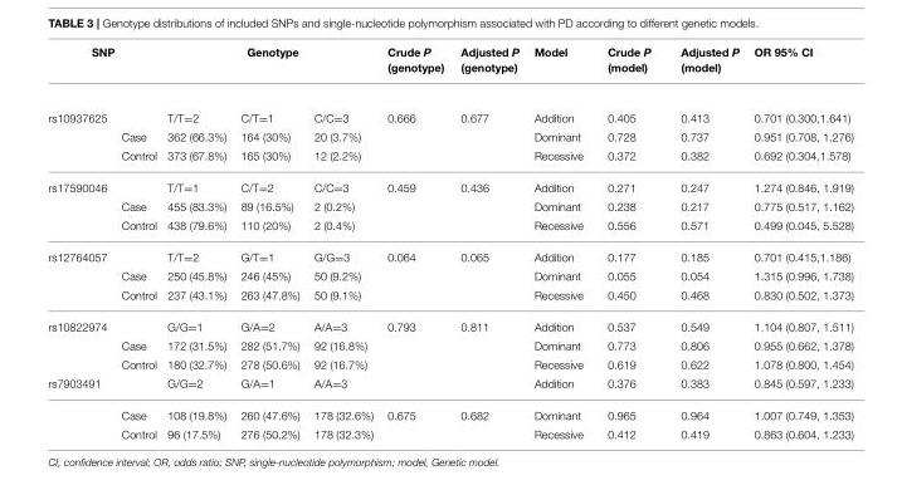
<table><thead><tr><td colspan="2">SNP</td><td colspan="3">Genotype</td><td rowspan="2">Crude P (genotype) 0.666</td><td rowspan="2">Adjusted P (genotype) 0.677</td><td rowspan="2">Model Addition</td><td rowspan="2">Crude P (model) 0.405</td><td rowspan="2">Adjusted P (model) 0.413</td><td rowspan="2">OR 95% CI 0.701 (0.300,1.641)</td></tr><tr><td>rs10937625</td><td></td><td>T/T=2</td><td>C/T=1</td><td>C/C=3</td></tr></thead><tbody><tr><td></td><td>Case</td><td>362 (66.3%)</td><td>164 (30%)</td><td>20 (3.7%)</td><td></td><td></td><td>Dominant</td><td>0.728</td><td>0.737</td><td>0.951 (0.708, 1.276)</td></tr><tr><td></td><td>Control</td><td>373 (67.8%)</td><td>165 (30%)</td><td>12 (2.2%)</td><td></td><td></td><td>Recessive</td><td>0.372</td><td>0.382</td><td>0.692 (0.304,1.578)</td></tr><tr><td rowspan="3">rs17590046</td><td></td><td>T/T=1</td><td>C/T=2</td><td>C/C=3</td><td>0.459</td><td>0.436</td><td>Addition</td><td>0.271</td><td>0.247</td><td>1.274 (0.846, 1.919)</td></tr><tr><td>Case</td><td>455 (83.3%)</td><td>89 (16.5%)</td><td>2 (0.2%)</td><td></td><td></td><td>Dominant</td><td>0.238</td><td>0.217</td><td>0.775 (0.517, 1.162)</td></tr><tr><td>Control</td><td>438 (79.6%)</td><td>110 (20%)</td><td>2 (0.4%)</td><td></td><td></td><td>Recessive</td><td>0.556</td><td>0.571</td><td>0.499 (0.045, 5.528)</td></tr><tr><td rowspan="3">rs12764057</td><td></td><td>T/T=2</td><td>G/T=1</td><td>G/G=3</td><td>0.064</td><td>0.065</td><td>Addition</td><td>0.177</td><td>0.185</td><td>0.701 (0.415,1.186)</td></tr><tr><td>Case</td><td>250 (45.8%)</td><td>246 (45%)</td><td>50 (9.2%)</td><td></td><td></td><td>Dominant</td><td>0.055</td><td>0.054</td><td>1.315 (0.996, 1.738)</td></tr><tr><td>Control</td><td>237 (43.1%)</td><td>263 (47.8%)</td><td>50 (9.1%)</td><td></td><td></td><td>Recessive</td><td>0.450</td><td>0.468</td><td>0.830 (0.502, 1.373)</td></tr><tr><td rowspan="3">rs10822974</td><td></td><td>G/G=1</td><td>G/A=2</td><td>A/A=3</td><td>0.793</td><td>0.811</td><td>Addition</td><td>0.537</td><td>0.549</td><td>1.104 (0.807, 1.511)</td></tr><tr><td>Case</td><td>172 (31.5%)</td><td>282 (51.7%)</td><td>92 (16.8%)</td><td></td><td></td><td>Dominant</td><td>0.773</td><td>0.806</td><td>0.955 (0.662, 1.378)</td></tr><tr><td>Control</td><td>180 (32.7%)</td><td>278 (50.6%)</td><td>92 (16.7%)</td><td></td><td></td><td>Recessive</td><td>0.619</td><td>0.622</td><td>1.078 (0.800, 1.454)</td></tr><tr><td rowspan="3">rs7903491</td><td></td><td>G/G=2</td><td>G/A=1</td><td>A/A=3</td><td></td><td></td><td>Addition</td><td>0.376</td><td>0.383</td><td>0.845 (0.597, 1.233)</td></tr><tr><td>Case</td><td>108 (19.8%)</td><td>260 (47.6%)</td><td>178 (32.6%)</td><td>0.675</td><td>0.682</td><td>Dominant</td><td>0.965</td><td>0.964</td><td>1.007 (0.749, 1.353)</td></tr><tr><td>Control</td><td>96 (17.5%)</td><td>276 (50.2%)</td><td>178 (32.3%)</td><td></td><td></td><td>Recessive</td><td>0.412</td><td>0.419</td><td>0.863 (0.604, 1.233)</td></tr></tbody></table>